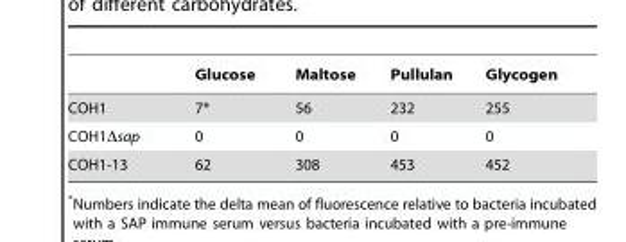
<table><thead><tr><td></td><td>Glucose</td><td>Maltose</td><td>Pullulan</td><td>Glycogen</td></tr></thead><tbody><tr><td>COH1</td><td>7*</td><td>56</td><td>232</td><td>255</td></tr><tr><td>COH1Δsap</td><td>0</td><td>0</td><td>0</td><td>0</td></tr><tr><td>COH1-13</td><td>62</td><td>308</td><td>453</td><td>452</td></tr></tbody></table>